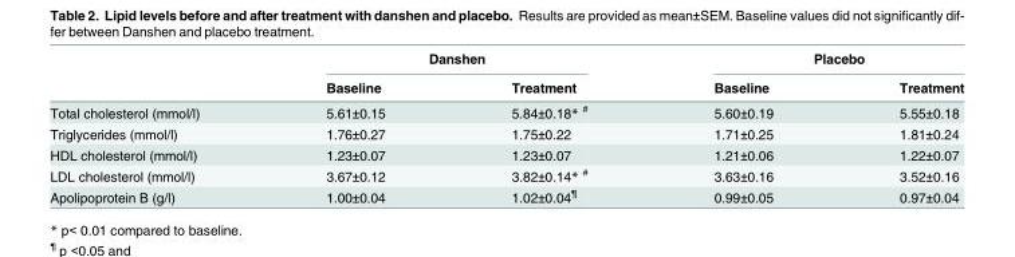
<table><thead><tr><td rowspan="2"></td><td colspan="2">Danshen</td><td colspan="2">Placebo</td></tr><tr><td>Baseline</td><td>Treatment</td><td>Baseline</td><td>Treatment</td></tr></thead><tbody><tr><td>Total cholesterol (mmol/l)</td><td>5.61±0.15</td><td>5.84±0.18* <sup>#</sup></td><td>5.60±0.19</td><td>5.55±0.18</td></tr><tr><td>Triglycerides (mmol/l)</td><td>1.76±0.27</td><td>1.75±0.22</td><td>1.71±0.25</td><td>1.81±0.24</td></tr><tr><td>HDL cholesterol (mmol/l)</td><td>1.23±0.07</td><td>1.23±0.07</td><td>1.21±0.06</td><td>1.22±0.07</td></tr><tr><td>LDL cholesterol (mmol/l)</td><td>3.67±0.12</td><td>3.82±0.14* <sup>#</sup></td><td>3.63±0.16</td><td>3.52±0.16</td></tr><tr><td>Apolipoprotein B (g/l)</td><td>1.00±0.04</td><td>1.02±0.04<sup>¶</sup></td><td>0.99±0.05</td><td>0.97±0.04</td></tr></tbody></table>